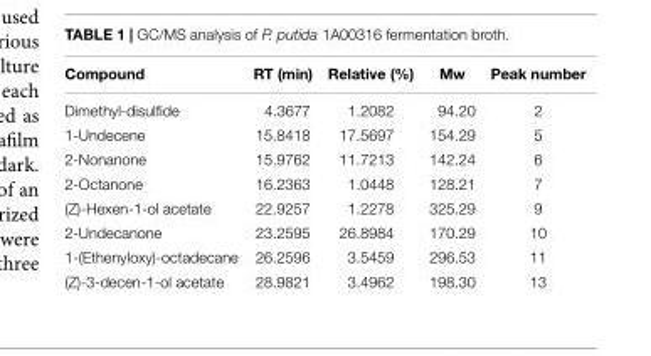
<table><thead><tr><td>Compound</td><td>RT (min)</td><td>Relative (%)</td><td>Mw</td><td>Peak number</td></tr></thead><tbody><tr><td>Dimethyl-disulfide</td><td>4.3677</td><td>1.2082</td><td>94.20</td><td>2</td></tr><tr><td>1-Undecene</td><td>15.8418</td><td>17.5697</td><td>154.29</td><td>5</td></tr><tr><td>2-Nonanone</td><td>15.9762</td><td>11.7213</td><td>142.24</td><td>6</td></tr><tr><td>2-Octanone</td><td>16.2363</td><td>1.0448</td><td>128.21</td><td>7</td></tr><tr><td>(Z)-Hexen-1-ol acetate</td><td>22.9257</td><td>1.2278</td><td>325.29</td><td>9</td></tr><tr><td>2-Undecanone</td><td>23.2595</td><td>26.8984</td><td>170.29</td><td>10</td></tr><tr><td>1-(Ethenyloxy)-octadecane</td><td>26.2596</td><td>3.5459</td><td>296.53</td><td>11</td></tr><tr><td>(Z)-3-decen-1-ol acetate</td><td>28.9821</td><td>3.4962</td><td>198.30</td><td>13</td></tr></tbody></table>